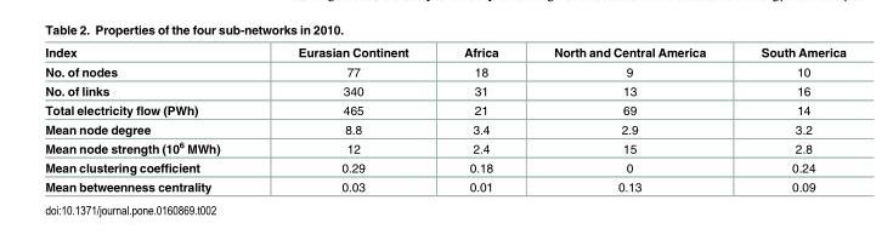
<table><thead><tr><td>Index</td><td>Eurasian Continent</td><td>Africa</td><td>North and Central America</td><td>South America</td></tr></thead><tbody><tr><td>No. of nodes</td><td>77</td><td>18</td><td>9</td><td>10</td></tr><tr><td>No. of links</td><td>340</td><td>31</td><td>13</td><td>16</td></tr><tr><td>Total electricity flow (PWh)</td><td>465</td><td>21</td><td>69</td><td>14</td></tr><tr><td>Mean node degree</td><td>8.8</td><td>3.4</td><td>2.9</td><td>3.2</td></tr><tr><td>Mean node strength (10<sup>6</sup> MWh)</td><td>12</td><td>2.4</td><td>15</td><td>2.8</td></tr><tr><td>Mean clustering coefficient</td><td>0.29</td><td>0.18</td><td>0</td><td>0.24</td></tr><tr><td>Mean betweenness centrality</td><td>0.03</td><td>0.01</td><td>0.13</td><td>0.09</td></tr></tbody></table>